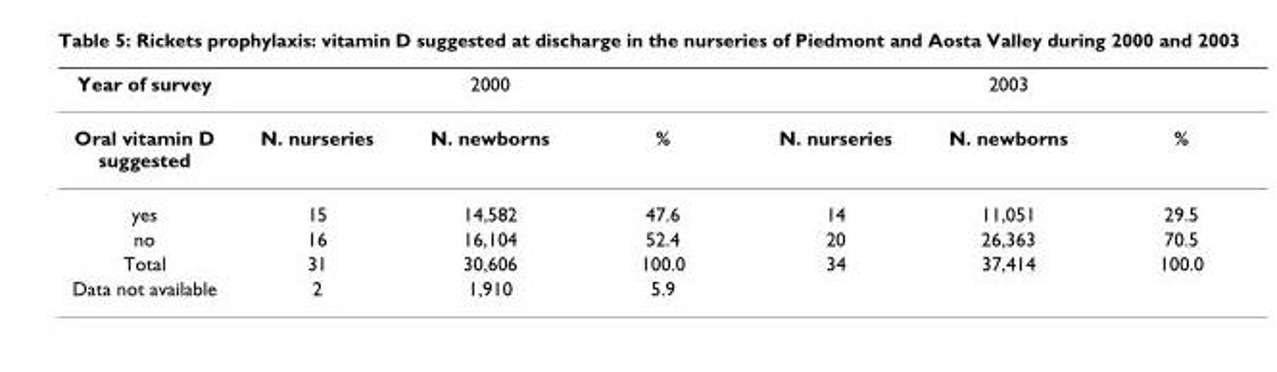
<table><thead><tr><td rowspan="2">Year of survey Oral vitamin D suggested</td><td colspan="3">2000</td><td colspan="3">2003</td></tr><tr><td>N. nurseries</td><td>N. newborns</td><td>%</td><td>N. nurseries</td><td>N. newborns</td><td>%</td></tr></thead><tbody><tr><td>yes</td><td>15</td><td>14,582</td><td>47.6</td><td>14</td><td>11,051</td><td>29.5</td></tr><tr><td>no</td><td>16</td><td>16,104</td><td>52.4</td><td>20</td><td>26,363</td><td>70.5</td></tr><tr><td>Total</td><td>31</td><td>30,606</td><td>100.0</td><td>34</td><td>37,414</td><td>100.0</td></tr><tr><td>Data not available</td><td>2</td><td>1,910</td><td>5.9</td><td></td><td></td><td></td></tr></tbody></table>